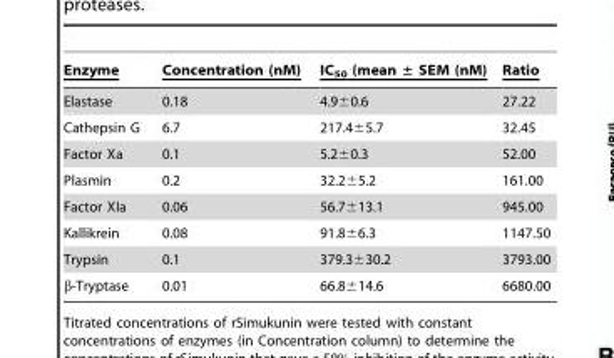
<table><thead><tr><td>Enzyme</td><td>Concentration (nM)</td><td>IC<sub>50</sub> (mean ± SEM (nM)</td><td>Ratio</td></tr></thead><tbody><tr><td>Elastase</td><td>0.18</td><td>4.9±0.6</td><td>27.22</td></tr><tr><td>Cathepsin G</td><td>6.7</td><td>217.4±5.7</td><td>32.45</td></tr><tr><td>Factor Xa</td><td>0.1</td><td>5.2±0.3</td><td>52.00</td></tr><tr><td>Plasmin</td><td>0.2</td><td>32.2±5.2</td><td>161.00</td></tr><tr><td>Factor XIa</td><td>0.06</td><td>56.7±13.1</td><td>945.00</td></tr><tr><td>Kallikrein</td><td>0.08</td><td>91.8±6.3</td><td>1147.50</td></tr><tr><td>Trypsin</td><td>0.1</td><td>379.3±30.2</td><td>3793.00</td></tr><tr><td>β-Tryptase</td><td>0.01</td><td>66.8±14.6</td><td>6680.00</td></tr></tbody></table>